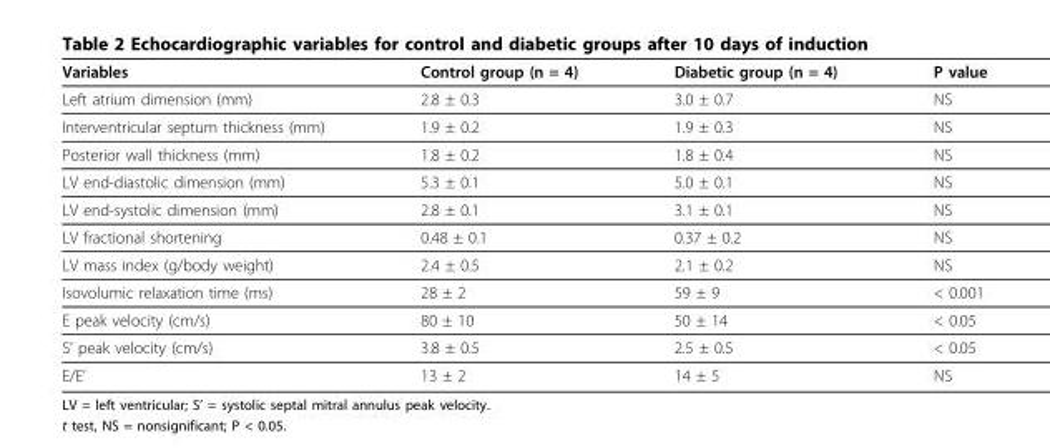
<table><thead><tr><td>Variables</td><td>Control group (n = 4)</td><td>Diabetic group (n = 4)</td><td>P value</td></tr></thead><tbody><tr><td>Left atrium dimension (mm)</td><td>2.8 ± 0.3</td><td>3.0 ± 0.7</td><td>NS</td></tr><tr><td>Interventricular septum thickness (mm)</td><td>1.9 ± 0.2</td><td>1.9 ± 0.3</td><td>NS</td></tr><tr><td>Posterior wall thickness (mm)</td><td>1.8 ± 0.2</td><td>1.8 ± 0.4</td><td>NS</td></tr><tr><td>LV end-diastolic dimension (mm)</td><td>5.3 ± 0.1</td><td>5.0 ± 0.1</td><td>NS</td></tr><tr><td>LV end-systolic dimension (mm)</td><td>2.8 ± 0.1</td><td>3.1 ± 0.1</td><td>NS</td></tr><tr><td>LV fractional shortening</td><td>0.48 ± 0.1</td><td>0.37 ± 0.2</td><td>NS</td></tr><tr><td>LV mass index (g/body weight)</td><td>2.4 ± 0.5</td><td>2.1 ± 0.2</td><td>NS</td></tr><tr><td>Isovolumic relaxation time (ms)</td><td>28 ± 2</td><td>59 ± 9</td><td>&lt; 0.001</td></tr><tr><td>E peak velocity (cm/s)</td><td>80 ± 10</td><td>50 ± 14</td><td>&lt; 0.05</td></tr><tr><td>S’ peak velocity (cm/s)</td><td>3.8 ± 0.5</td><td>2.5 ± 0.5</td><td>&lt; 0.05</td></tr><tr><td>E/E’</td><td>13 ± 2</td><td>14 ± 5</td><td>NS</td></tr></tbody></table>